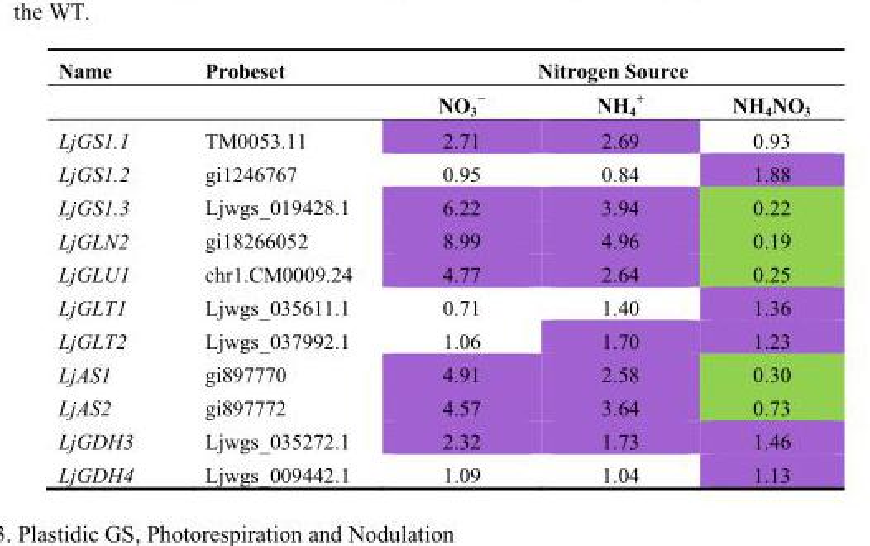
<table><thead><tr><td rowspan="2">Name</td><td rowspan="2">Probeset</td><td colspan="3">Nitrogen Source</td></tr><tr><td>NO<sub>3</sub> <sup>−</sup></td><td>NH<sub>4</sub> <sup>+</sup></td><td>NH<sub>4</sub>NO<sub>3</sub></td></tr></thead><tbody><tr><td>LjGS1.1</td><td>TM0053.11</td><td>2.71</td><td>2.69</td><td>0.93</td></tr><tr><td>LjGS1.2</td><td>gi1246767</td><td>0.95</td><td>0.84</td><td>1.88</td></tr><tr><td>LjGS1.3</td><td>Ljwgs_019428.1</td><td>6.22</td><td>3.94</td><td>0.22</td></tr><tr><td>LjGLN2</td><td>gi18266052</td><td>8.99</td><td>4.96</td><td>0.19</td></tr><tr><td>LjGLU1</td><td>chr1.CM0009.24</td><td>4.77</td><td>2.64</td><td>0.25</td></tr><tr><td>LjGLT1</td><td>Ljwgs_035611.1</td><td>0.71</td><td>1.40</td><td>1.36</td></tr><tr><td>LjGLT2</td><td>Ljwgs_037992.1</td><td>1.06</td><td>1.70</td><td>1.23</td></tr><tr><td>LjAS1</td><td>gi897770</td><td>4.91</td><td>2.58</td><td>0.30</td></tr><tr><td>LjAS2</td><td>gi897772</td><td>4.57</td><td>3.64</td><td>0.73</td></tr><tr><td>LjGDH3</td><td>Ljwgs_035272.1</td><td>2.32</td><td>1.73</td><td>1.46</td></tr><tr><td>LjGDH4</td><td>Ljwgs_009442.1</td><td>1.09</td><td>1.04</td><td>1.13</td></tr></tbody></table>